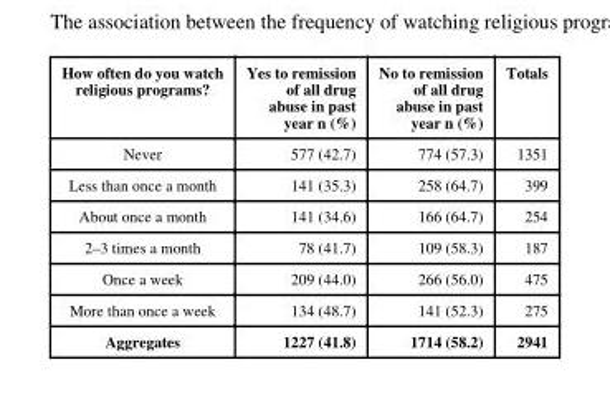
<table><thead><tr><td>How often do you watch religious programs?</td><td>Yes to remission of all drug abuse in past year n (%)</td><td>No to remission of all drug abuse in past year n (%)</td><td>Totals</td></tr></thead><tbody><tr><td>Never</td><td>577 (42.7)</td><td>774 (57.3)</td><td>1351</td></tr><tr><td>Less than once a month</td><td>141 (35.3)</td><td>258 (64.7)</td><td>399</td></tr><tr><td>About once a month</td><td>141 (34.6)</td><td>166 (64.7)</td><td>254</td></tr><tr><td>2–3 times a month</td><td>78 (41.7)</td><td>109 (58.3)</td><td>187</td></tr><tr><td>Once a week</td><td>209 (44.0)</td><td>266 (56.0)</td><td>475</td></tr><tr><td>More than once a week</td><td>134 (48.7)</td><td>141 (52.3)</td><td>275</td></tr><tr><td>Aggregates</td><td>1227 (41.8)</td><td>1714 (58.2)</td><td>2941</td></tr></tbody></table>